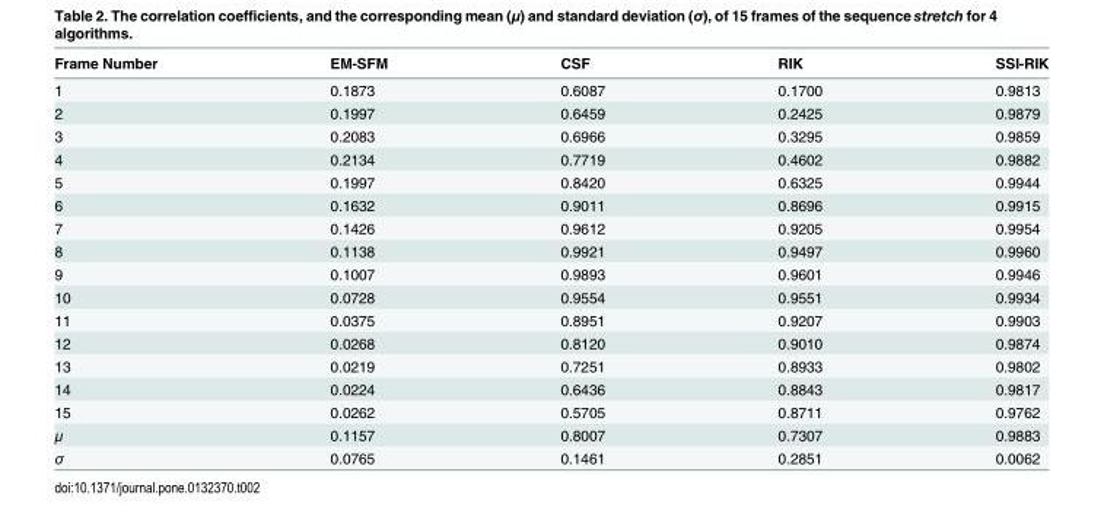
<table><thead><tr><td>Frame Number</td><td>EM-SFM</td><td>CSF</td><td>RIK</td><td>SSI-RIK</td></tr></thead><tbody><tr><td>1</td><td>0.1873</td><td>0.6087</td><td>0.1700</td><td>0.9813</td></tr><tr><td>2</td><td>0.1997</td><td>0.6459</td><td>0.2425</td><td>0.9879</td></tr><tr><td>3</td><td>0.2083</td><td>0.6966</td><td>0.3295</td><td>0.9859</td></tr><tr><td>4</td><td>0.2134</td><td>0.7719</td><td>0.4602</td><td>0.9882</td></tr><tr><td>5</td><td>0.1997</td><td>0.8420</td><td>0.6325</td><td>0.9944</td></tr><tr><td>6</td><td>0.1632</td><td>0.9011</td><td>0.8696</td><td>0.9915</td></tr><tr><td>7</td><td>0.1426</td><td>0.9612</td><td>0.9205</td><td>0.9954</td></tr><tr><td>8</td><td>0.1138</td><td>0.9921</td><td>0.9497</td><td>0.9960</td></tr><tr><td>9</td><td>0.1007</td><td>0.9893</td><td>0.9601</td><td>0.9946</td></tr><tr><td>10</td><td>0.0728</td><td>0.9554</td><td>0.9551</td><td>0.9934</td></tr><tr><td>11</td><td>0.0375</td><td>0.8951</td><td>0.9207</td><td>0.9903</td></tr><tr><td>12</td><td>0.0268</td><td>0.8120</td><td>0.9010</td><td>0.9874</td></tr><tr><td>13</td><td>0.0219</td><td>0.7251</td><td>0.8933</td><td>0.9802</td></tr><tr><td>14</td><td>0.0224</td><td>0.6436</td><td>0.8843</td><td>0.9817</td></tr><tr><td>15</td><td>0.0262</td><td>0.5705</td><td>0.8711</td><td>0.9762</td></tr><tr><td>μ</td><td>0.1157</td><td>0.8007</td><td>0.7307</td><td>0.9883</td></tr><tr><td>σ</td><td>0.0765</td><td>0.1461</td><td>0.2851</td><td>0.0062</td></tr></tbody></table>